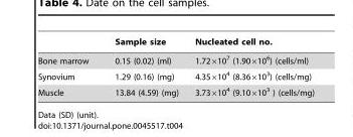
<table><thead><tr><td></td><td>Sample size</td><td>Nucleated cell no.</td></tr></thead><tbody><tr><td>Bone marrow</td><td>0.15 (0.02) (ml)</td><td>1.72×10<sup>7</sup> (1.90×10<sup>6</sup>) (cells/ml)</td></tr><tr><td>Synovium</td><td>1.29 (0.16) (mg)</td><td>4.35×10<sup>4</sup> (8.36×10<sup>3</sup>) (cells/mg)</td></tr><tr><td>Muscle</td><td>13.84 (4.59) (mg)</td><td>3.73×10<sup>4</sup> (9.10×10<sup>3</sup> ) (cells/mg)</td></tr></tbody></table>